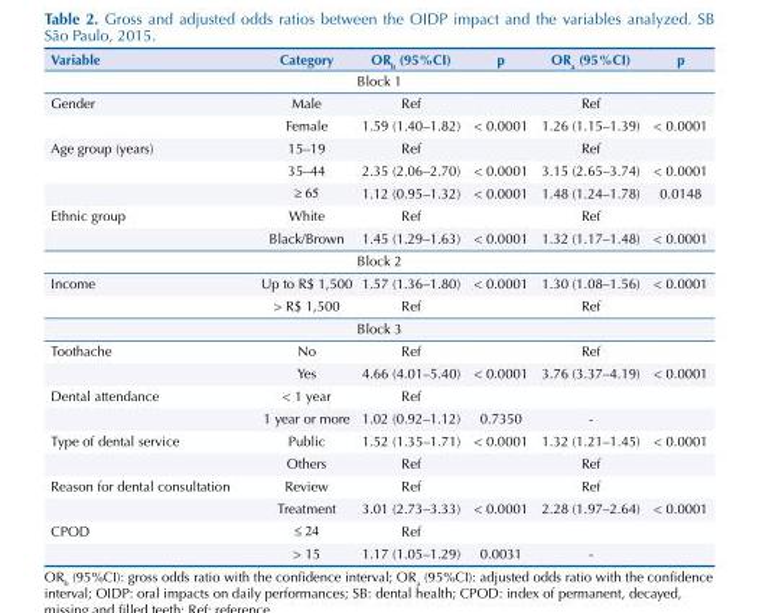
<table><thead><tr><td>Variable</td><td>Category</td><td>OR<sub>b</sub> (95%CI)</td><td>p</td><td>OR<sub>a</sub> (95%CI)</td><td>p</td></tr></thead><tbody><tr><td colspan="6">Block 1</td></tr><tr><td rowspan="2">Gender</td><td>Male</td><td>Ref</td><td></td><td>Ref</td><td></td></tr><tr><td>Female</td><td>1.59 (1.40–1.82)</td><td>&lt; 0.0001</td><td>1.26 (1.15–1.39)</td><td>&lt; 0.0001</td></tr><tr><td rowspan="3">Age group (years)</td><td>15–19</td><td>Ref</td><td></td><td>Ref</td><td></td></tr><tr><td>35–44</td><td>2.35 (2.06–2.70)</td><td>&lt; 0.0001</td><td>3.15 (2.65–3.74)</td><td>&lt; 0.0001</td></tr><tr><td>≥ 65</td><td>1.12 (0.95–1.32)</td><td>&lt; 0.0001</td><td>1.48 (1.24–1.78)</td><td>0.0148</td></tr><tr><td rowspan="2">Ethnic group</td><td>White</td><td>Ref</td><td></td><td>Ref</td><td></td></tr><tr><td>Black/Brown</td><td>1.45 (1.29–1.63)</td><td>&lt; 0.0001</td><td>1.32 (1.17–1.48)</td><td>&lt; 0.0001</td></tr><tr><td colspan="6">Block 2</td></tr><tr><td rowspan="2">Income</td><td>Up to R$ 1,500</td><td>1.57 (1.36–1.80)</td><td>&lt; 0.0001</td><td>1.30 (1.08–1.56)</td><td>&lt; 0.0001</td></tr><tr><td>&gt; R$ 1,500</td><td>Ref</td><td></td><td>Ref</td><td></td></tr><tr><td colspan="6">Block 3</td></tr><tr><td rowspan="2">Toothache</td><td>No</td><td>Ref</td><td></td><td>Ref</td><td></td></tr><tr><td>Yes</td><td>4.66 (4.01–5.40)</td><td>&lt; 0.0001</td><td>3.76 (3.37–4.19)</td><td>&lt; 0.0001</td></tr><tr><td rowspan="2">Dental attendance</td><td>&lt; 1 year</td><td>Ref</td><td></td><td></td><td></td></tr><tr><td>1 year or more</td><td>1.02 (0.92–1.12)</td><td>0.7350</td><td>-</td><td></td></tr><tr><td rowspan="2">Type of dental service</td><td>Public</td><td>1.52 (1.35–1.71)</td><td>&lt; 0.0001</td><td>1.32 (1.21–1.45)</td><td>&lt; 0.0001</td></tr><tr><td>Others</td><td>Ref</td><td></td><td>Ref</td><td></td></tr><tr><td rowspan="2">Reason for dental consultation</td><td>Review</td><td>Ref</td><td></td><td>Ref</td><td></td></tr><tr><td>Treatment</td><td>3.01 (2.73–3.33)</td><td>&lt; 0.0001</td><td>2.28 (1.97–2.64)</td><td>&lt; 0.0001</td></tr><tr><td rowspan="2">CPOD</td><td>≤ 24</td><td>Ref</td><td></td><td></td><td></td></tr><tr><td>&gt; 15</td><td>1.17 (1.05–1.29)</td><td>0.0031</td><td>-</td><td></td></tr></tbody></table>